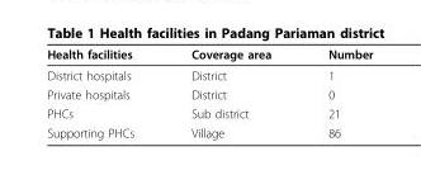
<table><thead><tr><td>Health facilities</td><td>Coverage area</td><td>Number</td></tr></thead><tbody><tr><td>District hospitals</td><td>District</td><td>1</td></tr><tr><td>Private hospitals</td><td>District</td><td>0</td></tr><tr><td>PHCs</td><td>Sub district</td><td>21</td></tr><tr><td>Supporting PHCs</td><td>Village</td><td>86</td></tr></tbody></table>